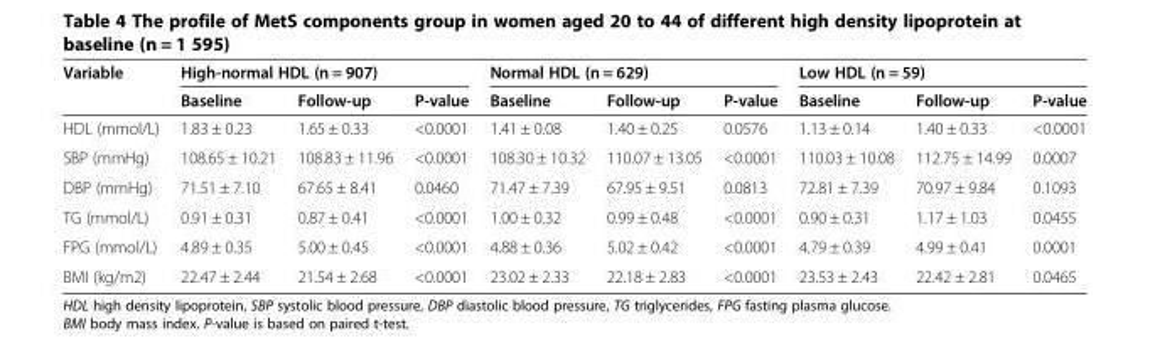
<table><thead><tr><td rowspan="2">Variable</td><td colspan="3">High-normal HDL (n = 907)</td><td colspan="3">Normal HDL (n = 629)</td><td colspan="3">Low HDL (n = 59)</td></tr><tr><td>Baseline</td><td>Follow-up</td><td>P-value</td><td>Baseline</td><td>Follow-up</td><td>P-value</td><td>Baseline</td><td>Follow-up</td><td>P-value</td></tr></thead><tbody><tr><td>HDL (mmol/L)</td><td>1.83 ± 0.23</td><td>1.65 ± 0.33</td><td>&lt;0.0001</td><td>1.41 ± 0.08</td><td>1.40 ± 0.25</td><td>0.0576</td><td>1.13 ± 0.14</td><td>1.40 ± 0.33</td><td>&lt;0.0001</td></tr><tr><td>SBP (mmHg)</td><td>108.65 ± 10.21</td><td>108.83 ± 11.96</td><td>&lt;0.0001</td><td>108.30 ± 10.32</td><td>110.07 ± 13.05</td><td>&lt;0.0001</td><td>110.03 ± 10.08</td><td>112.75 ± 14.99</td><td>0.0007</td></tr><tr><td>DBP (mmHg)</td><td>71.51 ± 7.10</td><td>67.65 ± 8.41</td><td>0.0460</td><td>71.47 ± 7.39</td><td>67.95 ± 9.51</td><td>0.0813</td><td>72.81 ± 7.39</td><td>70.97 ± 9.84</td><td>0.1093</td></tr><tr><td>TG (mmol/L)</td><td>0.91 ± 0.31</td><td>0.87 ± 0.41</td><td>&lt;0.0001</td><td>1.00 ± 0.32</td><td>0.99 ± 0.48</td><td>&lt;0.0001</td><td>0.90 ± 0.31</td><td>1.17 ± 1.03</td><td>0.0455</td></tr><tr><td>FPG (mmol/L)</td><td>4.89 ± 0.35</td><td>5.00 ± 0.45</td><td>&lt;0.0001</td><td>4.88 ± 0.36</td><td>5.02 ± 0.42</td><td>&lt;0.0001</td><td>4.79 ± 0.39</td><td>4.99 ± 0.41</td><td>0.0001</td></tr><tr><td>BMI (kg/m2)</td><td>22.47 ± 2.44</td><td>21.54 ± 2.68</td><td>&lt;0.0001</td><td>23.02 ± 2.33</td><td>22.18 ± 2.83</td><td>&lt;0.0001</td><td>23.53 ± 2.43</td><td>22.42 ± 2.81</td><td>0.0465</td></tr></tbody></table>